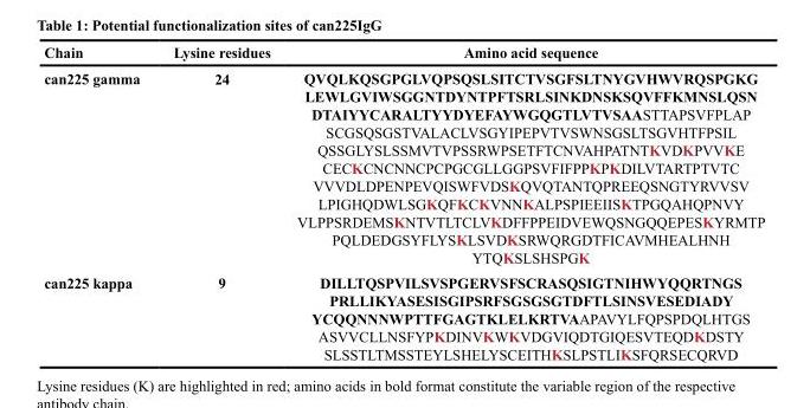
<table><thead><tr><td>Chain</td><td>Lysine residues</td><td>Amino acid sequence</td></tr></thead><tbody><tr><td>can225 gamma</td><td>24</td><td>QVQLKQSGPGLVQPSQSLSITCTVSGFSLTNYGVHWVRQSPGKG LEWLGVIWSGGNTDYNTPFTSRLSINKDNSKSQVFFKMNSLQSN DTAIYYCARALTYYDYEFAYWGQGTLVTVSAASTTAPSVFPLAP SCGSQSGSTVALACLVSGYIPEPVTVSWNSGSLTSGVHTFPSIL QSSGLYSLSSMVTVPSSRWPSETFTCNVAHPATNTKVDKPVVKE CECKCNCNNCPCPGCGLLGGPSVFIFPPKPKDILVTARTPTVTC VVVDLDPENPEVQISWFVDSKQVQTANTQPREEQSNGTYRVVSV LPIGHQDWLSGKQFKCKVNNKALPSPIEEIISKTPGQAHQPNVY VLPPSRDEMSKNTVTLTCLVKDFFPPEIDVEWQSNGQQEPESKYRMTP PQLDEDGSYFLYSKLSVDKSRWQRGDTFICAVMHEALHNH YTQKSLSHSPGK</td></tr><tr><td>can225 kappa</td><td>9</td><td>DILLTQSPVILSVSPGERVSFSCRASQSIGTNIHWYQQRTNGS PRLLIKYASESISGIPSRFSGSGSGTDFTLSINSVESEDIADY YCQQNNNWPTTFGAGTKLELKRTVAAPAVYLFQPSPDQLHTGS ASVVCLLNSFYPKDINVKWKVDGVIQDTGIQESVTEQDKDSTY SLSSTLTMSSTEYLSHELYSCEITHKSLPSTLIKSFQRSECQRVD</td></tr></tbody></table>